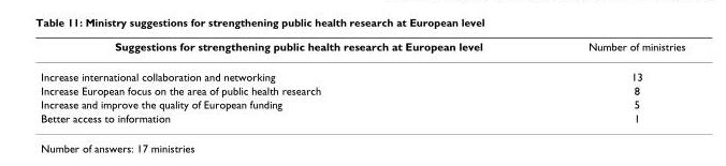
<table><thead><tr><td>Suggestions for strengthening public health research at European level</td><td>Number of ministries</td></tr></thead><tbody><tr><td>Increase international collaboration and networking</td><td>13</td></tr><tr><td>Increase European focus on the area of public health research</td><td>8</td></tr><tr><td>Increase and improve the quality of European funding</td><td>5</td></tr><tr><td>Better access to information</td><td>1</td></tr></tbody></table>